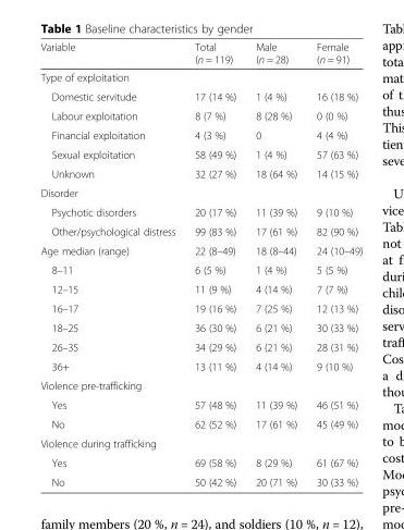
<table><thead><tr><td>Variable</td><td>Total (n = 119)</td><td>Male (n = 28)</td><td>Female (n = 91)</td></tr></thead><tbody><tr><td colspan="4">Type of exploitation</td></tr><tr><td>Domestic servitude</td><td>17 (14 %)</td><td>1 (4 %)</td><td>16 (18 %)</td></tr><tr><td>Labour exploitation</td><td>8 (7 %)</td><td>8 (28 %)</td><td>0 (0 %)</td></tr><tr><td>Financial exploitation</td><td>4 (3 %)</td><td>0</td><td>4 (4 %)</td></tr><tr><td>Sexual exploitation</td><td>58 (49 %)</td><td>1 (4 %)</td><td>57 (63 %)</td></tr><tr><td>Unknown</td><td>32 (27 %)</td><td>18 (64 %)</td><td>14 (15 %)</td></tr><tr><td colspan="4">Disorder</td></tr><tr><td>Psychotic disorders</td><td>20 (17 %)</td><td>11 (39 %)</td><td>9 (10 %)</td></tr><tr><td>Other/psychological distress</td><td>99 (83 %)</td><td>17 (61 %)</td><td>82 (90 %)</td></tr><tr><td>Age median (range)</td><td>22 (8–49)</td><td>18 (8–44)</td><td>24 (10–49)</td></tr><tr><td>8–11</td><td>6 (5 %)</td><td>1 (4 %)</td><td>5 (5 %)</td></tr><tr><td>12–15</td><td>11 (9 %)</td><td>4 (14 %)</td><td>7 (7 %)</td></tr><tr><td>16–17</td><td>19 (16 %)</td><td>7 (25 %)</td><td>12 (13 %)</td></tr><tr><td>18–25</td><td>36 (30 %)</td><td>6 (21 %)</td><td>30 (33 %)</td></tr><tr><td>26–35</td><td>34 (29 %)</td><td>6 (21 %)</td><td>28 (31 %)</td></tr><tr><td>36+</td><td>13 (11 %)</td><td>4 (14 %)</td><td>9 (10 %)</td></tr><tr><td colspan="4">Violence pre-trafficking</td></tr><tr><td>Yes</td><td>57 (48 %)</td><td>11 (39 %)</td><td>46 (51 %)</td></tr><tr><td>No</td><td>62 (52 %)</td><td>17 (61 %)</td><td>45 (49 %)</td></tr><tr><td colspan="4">Violence during trafficking</td></tr><tr><td>Yes</td><td>69 (58 %)</td><td>8 (29 %)</td><td>61 (67 %)</td></tr><tr><td>No</td><td>50 (42 %)</td><td>20 (71 %)</td><td>30 (33 %)</td></tr></tbody></table>